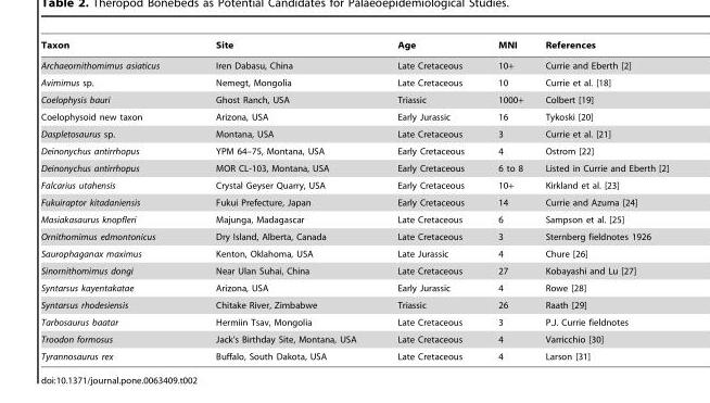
<table><thead><tr><td>Taxon</td><td>Site</td><td>Age</td><td>MNI</td><td>References</td></tr></thead><tbody><tr><td>Archaeornithomimus asiaticus</td><td>Iren Dabasu, China</td><td>Late Cretaceous</td><td>10+</td><td>Currie and Eberth [2]</td></tr><tr><td>Avimimus sp.</td><td>Nemegt, Mongolia</td><td>Late Cretaceous</td><td>10</td><td>Currie et al. [18]</td></tr><tr><td>Coelophysis bauri</td><td>Ghost Ranch, USA</td><td>Triassic</td><td>1000+</td><td>Colbert [19]</td></tr><tr><td>Coelophysoid new taxon</td><td>Arizona, USA</td><td>Early Jurassic</td><td>16</td><td>Tykoski [20]</td></tr><tr><td>Daspletosaurus sp.</td><td>Montana, USA</td><td>Late Cretaceous</td><td>3</td><td>Currie et al. [21]</td></tr><tr><td>Deinonychus antirrhopus</td><td>YPM 64–75, Montana, USA</td><td>Early Cretaceous</td><td>4</td><td>Ostrom [22]</td></tr><tr><td>Deinonychus antirrhopus</td><td>MOR CL-103, Montana, USA</td><td>Early Cretaceous</td><td>6 to 8</td><td>Listed in Currie and Eberth [2]</td></tr><tr><td>Falcarius utahensis</td><td>Crystal Geyser Quarry, USA</td><td>Early Cretaceous</td><td>10+</td><td>Kirkland et al. [23]</td></tr><tr><td>Fukuiraptor kitadaniensis</td><td>Fukui Prefecture, Japan</td><td>Early Cretaceous</td><td>14</td><td>Currie and Azuma [24]</td></tr><tr><td>Masiakasaurus knopfleri</td><td>Majunga, Madagascar</td><td>Late Cretaceous</td><td>6</td><td>Sampson et al. [25]</td></tr><tr><td>Ornithomimus edmontonicus</td><td>Dry Island, Alberta, Canada</td><td>Late Cretaceous</td><td>3</td><td>Sternberg fieldnotes 1926</td></tr><tr><td>Saurophaganax maximus</td><td>Kenton, Oklahoma, USA</td><td>Late Jurassic</td><td>4</td><td>Chure [26]</td></tr><tr><td>Sinornithomimus dongi</td><td>Near Ulan Suhai, China</td><td>Late Cretaceous</td><td>27</td><td>Kobayashi and Lu [27]</td></tr><tr><td>Syntarsus kayentakatae</td><td>Arizona, USA</td><td>Early Jurassic</td><td>4</td><td>Rowe [28]</td></tr><tr><td>Syntarsus rhodesiensis</td><td>Chitake River, Zimbabwe</td><td>Triassic</td><td>26</td><td>Raath [29]</td></tr><tr><td>Tarbosaurus baatar</td><td>Hermiin Tsav, Mongolia</td><td>Late Cretaceous</td><td>3</td><td>P.J. Currie fieldnotes</td></tr><tr><td>Troodon formosus</td><td>Jack’s Birthday Site, Montana, USA</td><td>Late Cretaceous</td><td>4</td><td>Varricchio [30]</td></tr><tr><td>Tyrannosaurus rex</td><td>Buffalo, South Dakota, USA</td><td>Late Cretaceous</td><td>4</td><td>Larson [31]</td></tr></tbody></table>